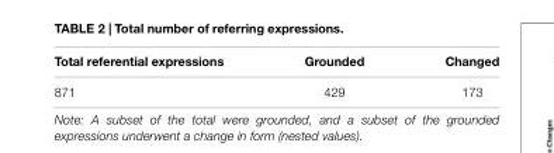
<table><thead><tr><td>Total referential expressions</td><td>Grounded</td><td>Changed</td></tr></thead><tbody><tr><td>871</td><td>429</td><td>173</td></tr></tbody></table>